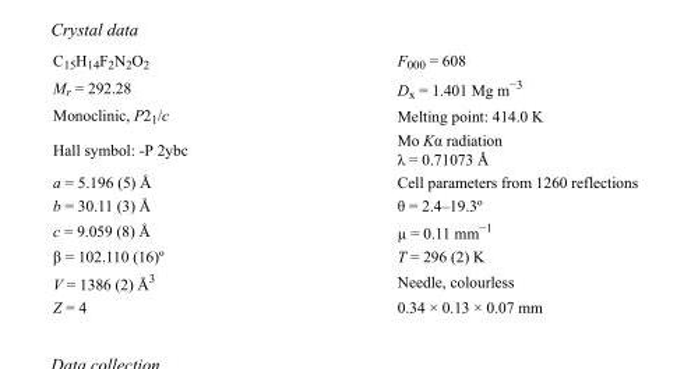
<table><tbody><tr><td>C<sub>15</sub>H<sub>14</sub>F<sub>2</sub>N<sub>2</sub>O<sub>2</sub></td><td>F000 = 608</td></tr><tr><td>M<sub>r</sub> = 292.28</td><td>D<sub>x</sub> = 1.401 Mg m<sup>−3</sup></td></tr><tr><td>Monoclinic, P2<sub>1</sub>/c</td><td>Melting point: 414.0 K</td></tr><tr><td>Hall symbol: -P 2ybc</td><td>Mo Kα radiation λ = 0.71073 Å</td></tr><tr><td>a = 5.196 (5) Å</td><td>Cell parameters from 1260 reflections</td></tr><tr><td>b = 30.11 (3) Å</td><td>θ = 2.4–19.3º</td></tr><tr><td>c = 9.059 (8) Å</td><td>µ = 0.11 mm<sup>−1</sup></td></tr><tr><td>β = 102.110 (16)º</td><td>T = 296 (2) K</td></tr><tr><td>V = 1386 (2) Å<sup>3</sup></td><td>Needle, colourless</td></tr><tr><td>Z = 4</td><td>0.34 × 0.13 × 0.07 mm</td></tr></tbody></table>